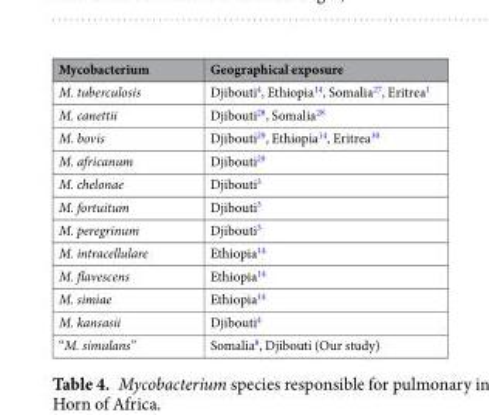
<table><thead><tr><td>Mycobacterium</td><td>Geographical exposure</td></tr></thead><tbody><tr><td>M. tuberculosis</td><td>Djibouti4, Ethiopia14, Somalia27, Eritrea1</td></tr><tr><td>M. canettii</td><td>Djibouti28, Somalia28</td></tr><tr><td>M. bovis</td><td>Djibouti29, Ethiopia14, Eritrea30</td></tr><tr><td>M. africanum</td><td>Djibouti29</td></tr><tr><td>M. chelonae</td><td>Djibouti3</td></tr><tr><td>M. fortuitum</td><td>Djibouti3</td></tr><tr><td>M. peregrinum</td><td>Djibouti3</td></tr><tr><td>M. intracellulare</td><td>Ethiopia14</td></tr><tr><td>M. flavescens</td><td>Ethiopia14</td></tr><tr><td>M. simiae</td><td>Ethiopia14</td></tr><tr><td>M. kansasii</td><td>Djibouti4</td></tr><tr><td>“M. simulans”</td><td>Somalia8, Djibouti (Our study)</td></tr></tbody></table>